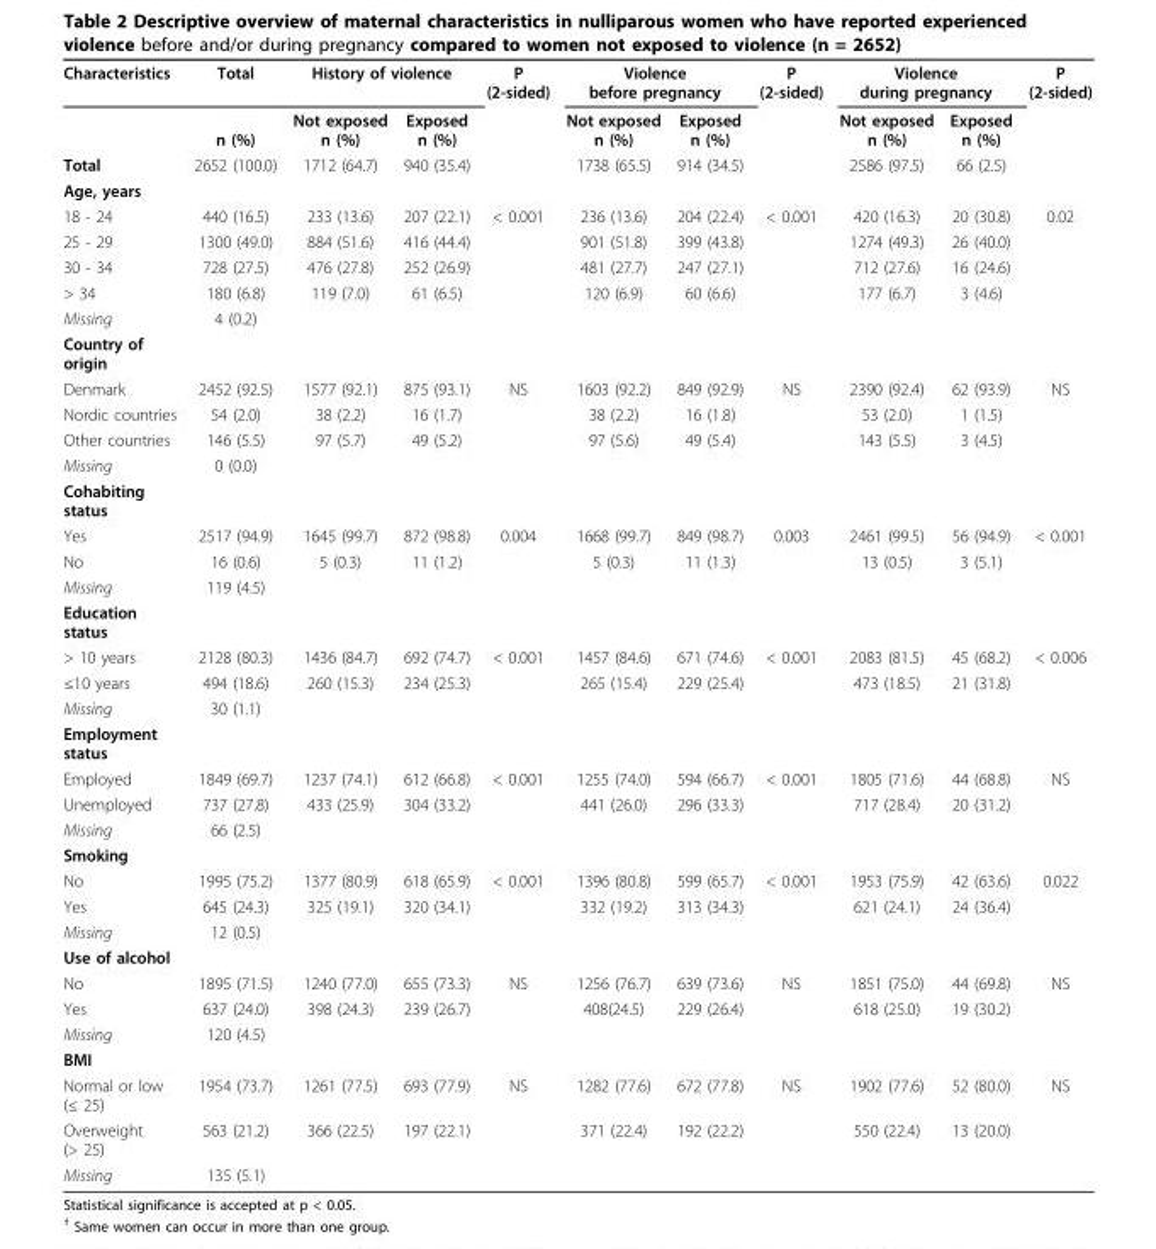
<table><tbody><tr><td rowspan="2">Characteristics</td><td>Total</td><td colspan="2">History of violence</td><td>P (2-sided)</td><td colspan="2">Violence before pregnancy</td><td>P (2-sided)</td><td colspan="2">Violence during pregnancy</td><td>P (2-sided)</td></tr><tr><td>n (%)</td><td>Not exposed n (%)</td><td>Exposed n (%)</td><td></td><td>Not exposed n (%)</td><td>Exposed n (%)</td><td></td><td>Not exposed n (%)</td><td>Exposed n (%)</td><td></td></tr><tr><td>Total</td><td>2652 (100.0)</td><td>1712 (64.7)</td><td>940 (35.4)</td><td></td><td>1738 (65.5)</td><td>914 (34.5)</td><td></td><td>2586 (97.5)</td><td>66 (2.5)</td><td></td></tr><tr><td colspan="11">Age, years</td></tr><tr><td>18 - 24</td><td>440 (16.5)</td><td>233 (13.6)</td><td>207 (22.1)</td><td>&lt; 0.001</td><td>236 (13.6)</td><td>204 (22.4)</td><td>&lt; 0.001</td><td>420 (16.3)</td><td>20 (30.8)</td><td>0.02</td></tr><tr><td>25 - 29</td><td>1300 (49.0)</td><td>884 (51.6)</td><td>416 (44.4)</td><td></td><td>901 (51.8)</td><td>399 (43.8)</td><td></td><td>1274 (49.3)</td><td>26 (40.0)</td><td></td></tr><tr><td>30 - 34</td><td>728 (27.5)</td><td>476 (27.8)</td><td>252 (26.9)</td><td></td><td>481 (27.7)</td><td>247 (27.1)</td><td></td><td>712 (27.6)</td><td>16 (24.6)</td><td></td></tr><tr><td>&gt; 34</td><td>180 (6.8)</td><td>119 (7.0)</td><td>61 (6.5)</td><td></td><td>120 (6.9)</td><td>60 (6.6)</td><td></td><td>177 (6.7)</td><td>3 (4.6)</td><td></td></tr><tr><td>Missing</td><td>4 (0.2)</td><td></td><td></td><td></td><td></td><td></td><td></td><td></td><td></td><td></td></tr><tr><td colspan="11">Country of origin</td></tr><tr><td>Denmark</td><td>2452 (92.5)</td><td>1577 (92.1)</td><td>875 (93.1)</td><td>NS</td><td>1603 (92.2)</td><td>849 (92.9)</td><td>NS</td><td>2390 (92.4)</td><td>62 (93.9)</td><td>NS</td></tr><tr><td>Nordic countries</td><td>54 (2.0)</td><td>38 (2.2)</td><td>16 (1.7)</td><td></td><td>38 (2.2)</td><td>16 (1.8)</td><td></td><td>53 (2.0)</td><td>1 (1.5)</td><td></td></tr><tr><td>Other countries</td><td>146 (5.5)</td><td>97 (5.7)</td><td>49 (5.2)</td><td></td><td>97 (5.6)</td><td>49 (5.4)</td><td></td><td>143 (5.5)</td><td>3 (4.5)</td><td></td></tr><tr><td>Missing</td><td>0 (0.0)</td><td></td><td></td><td></td><td></td><td></td><td></td><td></td><td></td><td></td></tr><tr><td colspan="11">Cohabiting status</td></tr><tr><td>Yes</td><td>2517 (94.9)</td><td>1645 (99.7)</td><td>872 (98.8)</td><td>0.004</td><td>1668 (99.7)</td><td>849 (98.7)</td><td>0.003</td><td>2461 (99.5)</td><td>56 (94.9)</td><td>&lt; 0.001</td></tr><tr><td>No</td><td>16 (0.6)</td><td>5 (0.3)</td><td>11 (1.2)</td><td></td><td>5 (0.3)</td><td>11 (1.3)</td><td></td><td>13 (0.5)</td><td>3 (5.1)</td><td></td></tr><tr><td>Missing</td><td>119 (4.5)</td><td></td><td></td><td></td><td></td><td></td><td></td><td></td><td></td><td></td></tr><tr><td colspan="11">Education status</td></tr><tr><td>&gt; 10 years</td><td>2128 (80.3)</td><td>1436 (84.7)</td><td>692 (74.7)</td><td>&lt; 0.001</td><td>1457 (84.6)</td><td>671 (74.6)</td><td>&lt; 0.001</td><td>2083 (81.5)</td><td>45 (68.2)</td><td>&lt; 0.006</td></tr><tr><td>≤10 years</td><td>494 (18.6)</td><td>260 (15.3)</td><td>234 (25.3)</td><td></td><td>265 (15.4)</td><td>229 (25.4)</td><td></td><td>473 (18.5)</td><td>21 (31.8)</td><td></td></tr><tr><td>Missing</td><td>30 (1.1)</td><td></td><td></td><td></td><td></td><td></td><td></td><td></td><td></td><td></td></tr><tr><td colspan="11">Employment status</td></tr><tr><td>Employed</td><td>1849 (69.7)</td><td>1237 (74.1)</td><td>612 (66.8)</td><td>&lt; 0.001</td><td>1255 (74.0)</td><td>594 (66.7)</td><td>&lt; 0.001</td><td>1805 (71.6)</td><td>44 (68.8)</td><td>NS</td></tr><tr><td>Unemployed</td><td>737 (27.8)</td><td>433 (25.9)</td><td>304 (33.2)</td><td></td><td>441 (26.0)</td><td>296 (33.3)</td><td></td><td>717 (28.4)</td><td>20 (31.2)</td><td></td></tr><tr><td>Missing</td><td>66 (2.5)</td><td></td><td></td><td></td><td></td><td></td><td></td><td></td><td></td><td></td></tr><tr><td colspan="11">Smoking</td></tr><tr><td>No</td><td>1995 (75.2)</td><td>1377 (80.9)</td><td>618 (65.9)</td><td>&lt; 0.001</td><td>1396 (80.8)</td><td>599 (65.7)</td><td>&lt; 0.001</td><td>1953 (75.9)</td><td>42 (63.6)</td><td>0.022</td></tr><tr><td>Yes</td><td>645 (24.3)</td><td>325 (19.1)</td><td>320 (34.1)</td><td></td><td>332 (19.2)</td><td>313 (34.3)</td><td></td><td>621 (24.1)</td><td>24 (36.4)</td><td></td></tr><tr><td>Missing</td><td>12 (0.5)</td><td></td><td></td><td></td><td></td><td></td><td></td><td></td><td></td><td></td></tr><tr><td colspan="11">Use of alcohol</td></tr><tr><td>No</td><td>1895 (71.5)</td><td>1240 (77.0)</td><td>655 (73.3)</td><td>NS</td><td>1256 (76.7)</td><td>639 (73.6)</td><td>NS</td><td>1851 (75.0)</td><td>44 (69.8)</td><td>NS</td></tr><tr><td>Yes</td><td>637 (24.0)</td><td>398 (24.3)</td><td>239 (26.7)</td><td></td><td>408(24.5)</td><td>229 (26.4)</td><td></td><td>618 (25.0)</td><td>19 (30.2)</td><td></td></tr><tr><td>Missing</td><td>120 (4.5)</td><td></td><td></td><td></td><td></td><td></td><td></td><td></td><td></td><td></td></tr><tr><td colspan="11">BMI</td></tr><tr><td>Normal or low (≤ 25)</td><td>1954 (73.7)</td><td>1261 (77.5)</td><td>693 (77.9)</td><td>NS</td><td>1282 (77.6)</td><td>672 (77.8)</td><td>NS</td><td>1902 (77.6)</td><td>52 (80.0)</td><td>NS</td></tr><tr><td>Overweight (&gt; 25)</td><td>563 (21.2)</td><td>366 (22.5)</td><td>197 (22.1)</td><td></td><td>371 (22.4)</td><td>192 (22.2)</td><td></td><td>550 (22.4)</td><td>13 (20.0)</td><td></td></tr><tr><td>Missing</td><td>135 (5.1)</td><td></td><td></td><td></td><td></td><td></td><td></td><td></td><td></td><td></td></tr></tbody></table>